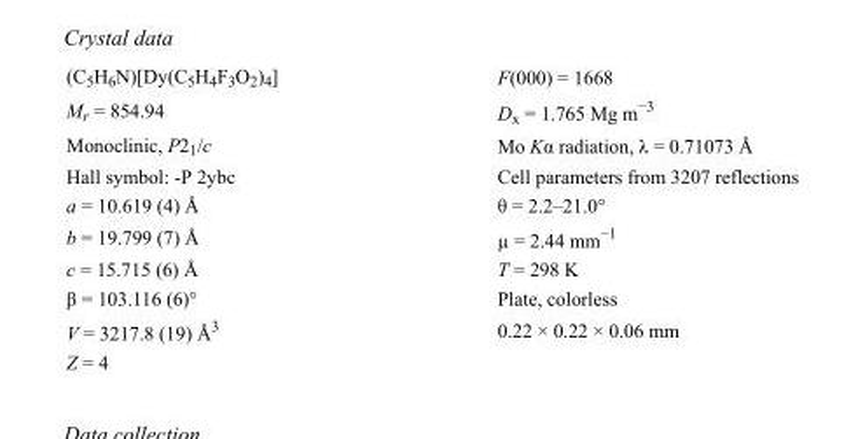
<table><tbody><tr><td>(C<sub>5</sub>H<sub>6</sub>N)[Dy(C<sub>5</sub>H<sub>4</sub>F<sub>3</sub>O<sub>2</sub>)<sub>4</sub>]</td><td>F(000) = 1668</td></tr><tr><td>M<sub>r</sub> = 854.94</td><td>D<sub>x</sub> = 1.765 Mg m<sup>−3</sup></td></tr><tr><td>Monoclinic, P2<sub>1</sub>/c</td><td>Mo Kα radiation, λ = 0.71073 Å</td></tr><tr><td>Hall symbol: -P 2ybc</td><td>Cell parameters from 3207 reflections</td></tr><tr><td>a = 10.619 (4) Å</td><td>θ = 2.2–21.0°</td></tr><tr><td>b = 19.799 (7) Å</td><td>µ = 2.44 mm<sup>−1</sup></td></tr><tr><td>c = 15.715 (6) Å</td><td>T = 298 K</td></tr><tr><td>β = 103.116 (6)°</td><td>Plate, colorless</td></tr><tr><td>V = 3217.8 (19) Å<sup>3</sup></td><td>0.22 × 0.22 × 0.06 mm</td></tr><tr><td>Z = 4</td><td></td></tr></tbody></table>